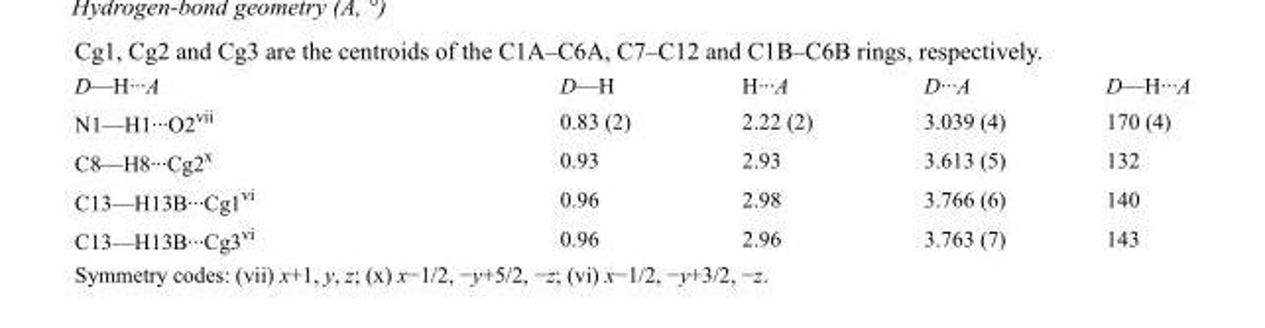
<table><tbody><tr><td>D—H···A</td><td>D—H</td><td>H···A</td><td>D···A</td><td>D—H···A</td></tr><tr><td>N1—H1···O2<sup>vii</sup></td><td>0.83 (2)</td><td>2.22 (2)</td><td>3.039 (4)</td><td>170 (4)</td></tr><tr><td>C8—H8···Cg2<sup>x</sup></td><td>0.93</td><td>2.93</td><td>3.613 (5)</td><td>132</td></tr><tr><td>C13—H13B···Cg1<sup>vi</sup></td><td>0.96</td><td>2.98</td><td>3.766 (6)</td><td>140</td></tr><tr><td>C13—H13B···Cg3<sup>vi</sup></td><td>0.96</td><td>2.96</td><td>3.763 (7)</td><td>143</td></tr></tbody></table>